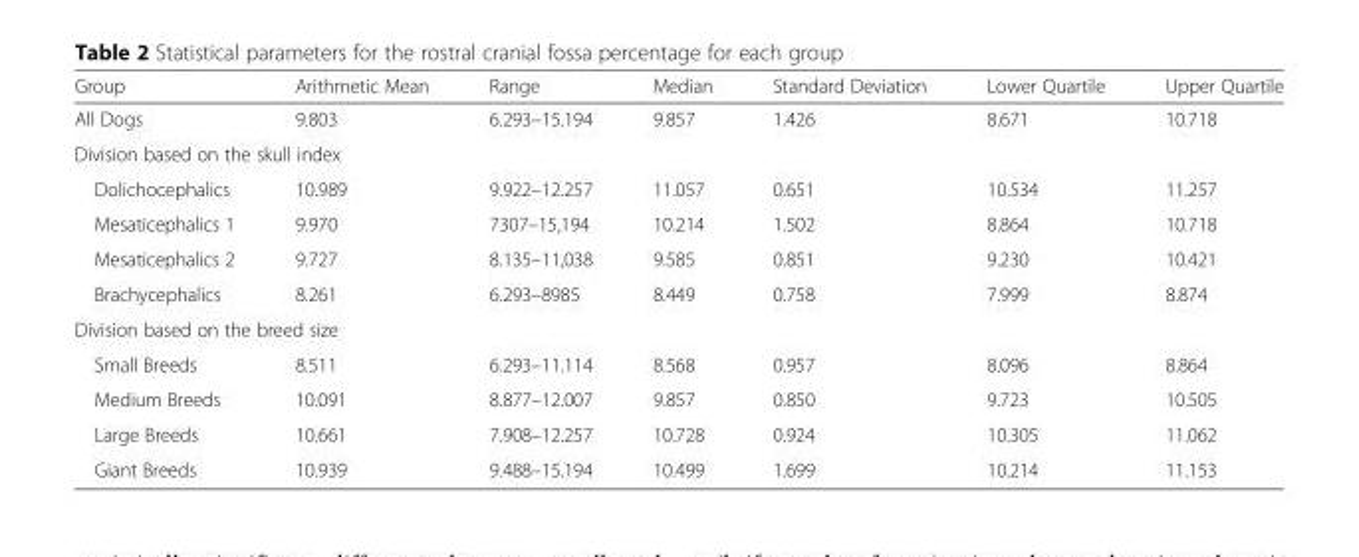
<table><thead><tr><td>Group</td><td>Arithmetic Mean</td><td>Range</td><td>Median</td><td>Standard Deviation</td><td>Lower Quartile</td><td>Upper Quartile</td></tr></thead><tbody><tr><td>All Dogs</td><td>9.803</td><td>6.293–15.194</td><td>9.857</td><td>1.426</td><td>8.671</td><td>10.718</td></tr><tr><td colspan="7">Division based on the skull index</td></tr><tr><td>Dolichocephalics</td><td>10.989</td><td>9.922–12.257</td><td>11.057</td><td>0.651</td><td>10.534</td><td>11.257</td></tr><tr><td>Mesaticephalics 1</td><td>9.970</td><td>7307–15,194</td><td>10.214</td><td>1.502</td><td>8.864</td><td>10.718</td></tr><tr><td>Mesaticephalics 2</td><td>9.727</td><td>8.135–11,038</td><td>9.585</td><td>0.851</td><td>9.230</td><td>10.421</td></tr><tr><td>Brachycephalics</td><td>8.261</td><td>6.293–8985</td><td>8.449</td><td>0.758</td><td>7.999</td><td>8.874</td></tr><tr><td colspan="7">Division based on the breed size</td></tr><tr><td>Small Breeds</td><td>8.511</td><td>6.293–11.114</td><td>8.568</td><td>0.957</td><td>8.096</td><td>8.864</td></tr><tr><td>Medium Breeds</td><td>10.091</td><td>8.877–12.007</td><td>9.857</td><td>0.850</td><td>9.723</td><td>10.505</td></tr><tr><td>Large Breeds</td><td>10.661</td><td>7.908–12.257</td><td>10.728</td><td>0.924</td><td>10.305</td><td>11.062</td></tr><tr><td>Giant Breeds</td><td>10.939</td><td>9.488–15.194</td><td>10.499</td><td>1.699</td><td>10.214</td><td>11.153</td></tr></tbody></table>